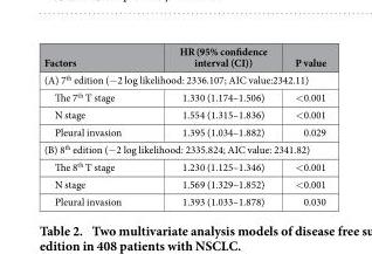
<table><thead><tr><td>Factors</td><td>HR (95% confidence interval (CI))</td><td>P value</td></tr></thead><tbody><tr><td colspan="3">(A) 7<sup>th</sup> edition (− 2 log likelihood: 2336.107; AIC value:2342.11)</td></tr><tr><td>The 7<sup>th</sup> T stage</td><td>1.330 (1.174–1.506)</td><td>&lt; 0.001</td></tr><tr><td>N stage</td><td>1.554 (1.315–1.836)</td><td>&lt; 0.001</td></tr><tr><td>Pleural invasion</td><td>1.395 (1.034–1.882)</td><td>0.029</td></tr><tr><td colspan="3">(B) 8<sup>th</sup> edition (− 2 log likelihood: 2335.824; AIC value: 2341.82)</td></tr><tr><td>The 8<sup>th</sup> T stage</td><td>1.230 (1.125–1.346)</td><td>&lt; 0.001</td></tr><tr><td>N stage</td><td>1.569 (1.329–1.852)</td><td>&lt; 0.001</td></tr><tr><td>Pleural invasion</td><td>1.393 (1.033–1.878)</td><td>0.030</td></tr></tbody></table>